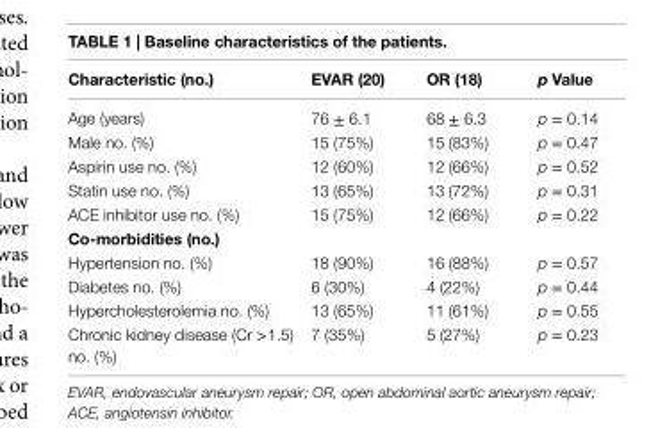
<table><thead><tr><td>characteristic (no.)</td><td>eVar (20)</td><td>Or (18)</td><td>p Value</td></tr></thead><tbody><tr><td>Age (years)</td><td>76 ± 6.1</td><td>68 ± 6.3</td><td>p = 0.14</td></tr><tr><td>Male no. (%)</td><td>15 (75%)</td><td>15 (83%)</td><td>p = 0.47</td></tr><tr><td>Aspirin use no. (%)</td><td>12 (60%)</td><td>12 (66%)</td><td>p = 0.52</td></tr><tr><td>Statin use no. (%)</td><td>13 (65%)</td><td>13 (72%)</td><td>p = 0.31</td></tr><tr><td>ACE inhibitor use no. (%)</td><td>15 (75%)</td><td>12 (66%)</td><td>p = 0.22</td></tr><tr><td colspan="4">co-morbidities (no.)</td></tr><tr><td>Hypertension no. (%)</td><td>18 (90%)</td><td>16 (88%)</td><td>p = 0.57</td></tr><tr><td>Diabetes no. (%)</td><td>6 (30%)</td><td>4 (22%)</td><td>p = 0.44</td></tr><tr><td>Hypercholesterolemia no. (%)</td><td>13 (65%)</td><td>11 (61%)</td><td>p = 0.55</td></tr><tr><td>Chronic kidney disease (Cr &gt;1.5) no. (%)</td><td>7 (35%)</td><td>5 (27%)</td><td>p = 0.23</td></tr></tbody></table>